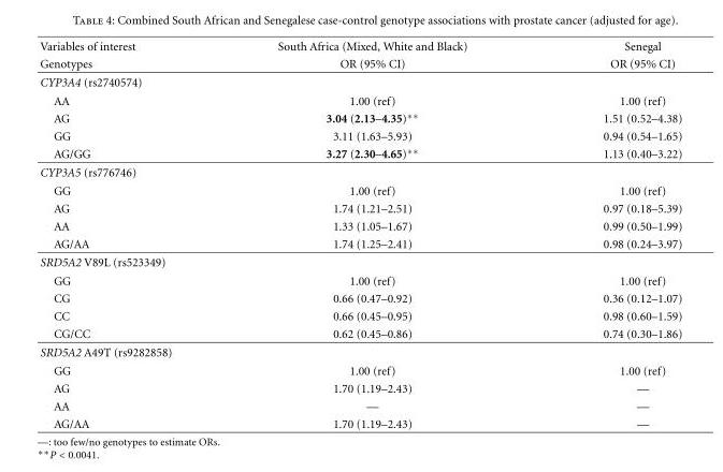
<table><thead><tr><td rowspan="2">Variables of interest Genotypes</td><td rowspan="2">South Africa (Mixed, White and Black) OR (95% CI)</td><td rowspan="2">Senegal OR (95% CI)</td></tr><tr></tr></thead><tbody><tr><td colspan="3">CYP3A4 (rs2740574)</td></tr><tr><td>AA</td><td>1.00 (ref)</td><td>1.00 (ref)</td></tr><tr><td>AG</td><td>3.04 (2.13–4.35)∗∗</td><td>1.51 (0.52–4.38)</td></tr><tr><td>GG</td><td>3.11 (1.63–5.93)</td><td>0.94 (0.54–1.65)</td></tr><tr><td>AG/GG</td><td>3.27 (2.30–4.65)∗∗</td><td>1.13 (0.40–3.22)</td></tr><tr><td colspan="3">CYP3A5 (rs776746)</td></tr><tr><td>GG</td><td>1.00 (ref)</td><td>1.00 (ref)</td></tr><tr><td>AG</td><td>1.74 (1.21–2.51)</td><td>0.97 (0.18–5.39)</td></tr><tr><td>AA</td><td>1.33 (1.05–1.67)</td><td>0.99 (0.50–1.99)</td></tr><tr><td>AG/AA</td><td>1.74 (1.25–2.41)</td><td>0.98 (0.24–3.97)</td></tr><tr><td colspan="3">SRD5A2 V89L (rs523349)</td></tr><tr><td>GG</td><td>1.00 (ref)</td><td>1.00 (ref)</td></tr><tr><td>CG</td><td>0.66 (0.47–0.92)</td><td>0.36 (0.12–1.07)</td></tr><tr><td>CC</td><td>0.66 (0.45–0.95)</td><td>0.98 (0.60–1.59)</td></tr><tr><td>CG/CC</td><td>0.62 (0.45–0.86)</td><td>0.74 (0.30–1.86)</td></tr><tr><td colspan="3">SRD5A2 A49T (rs9282858)</td></tr><tr><td>GG</td><td>1.00 (ref)</td><td>1.00 (ref)</td></tr><tr><td>AG</td><td>1.70 (1.19–2.43)</td><td>—</td></tr><tr><td>AA</td><td>—</td><td>—</td></tr><tr><td>AG/AA</td><td>1.70 (1.19–2.43)</td><td>—</td></tr></tbody></table>